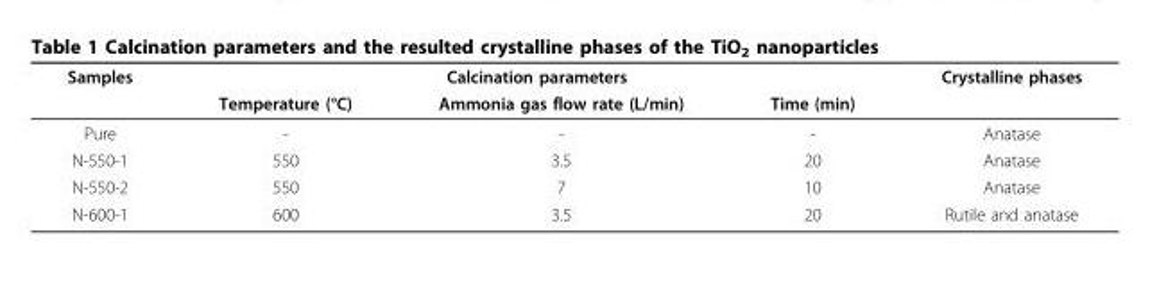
<table><thead><tr><td rowspan="2">Samples</td><td colspan="3">Calcination parameters</td><td rowspan="2">Crystalline phases</td></tr><tr><td>Temperature (°C)</td><td>Ammonia gas flow rate (L/min)</td><td>Time (min)</td></tr></thead><tbody><tr><td>Pure</td><td>-</td><td>-</td><td>-</td><td>Anatase</td></tr><tr><td>N-550-1</td><td>550</td><td>3.5</td><td>20</td><td>Anatase</td></tr><tr><td>N-550-2</td><td>550</td><td>7</td><td>10</td><td>Anatase</td></tr><tr><td>N-600-1</td><td>600</td><td>3.5</td><td>20</td><td>Rutile and anatase</td></tr></tbody></table>